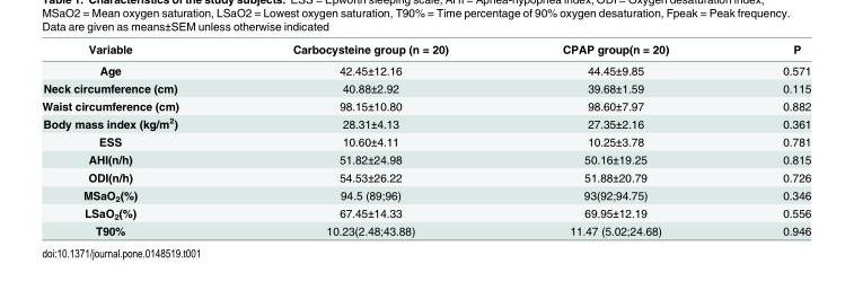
<table><thead><tr><td>Variable</td><td>Carbocysteine group (n = 20)</td><td>CPAP group(n = 20)</td><td>P</td></tr></thead><tbody><tr><td>Age</td><td>42.45±12.16</td><td>44.45±9.85</td><td>0.571</td></tr><tr><td>Neck circumference (cm)</td><td>40.88±2.92</td><td>39.68±1.59</td><td>0.115</td></tr><tr><td>Waist circumference (cm)</td><td>98.15±10.80</td><td>98.60±7.97</td><td>0.882</td></tr><tr><td>Body mass index (kg/m<sup>2</sup>)</td><td>28.31±4.13</td><td>27.35±2.16</td><td>0.361</td></tr><tr><td>ESS</td><td>10.60±4.11</td><td>10.25±3.78</td><td>0.781</td></tr><tr><td>AHI(n/h)</td><td>51.82±24.98</td><td>50.16±19.25</td><td>0.815</td></tr><tr><td>ODI(n/h)</td><td>54.53±26.22</td><td>51.88±20.79</td><td>0.726</td></tr><tr><td>MSaO<sub>2</sub>(%)</td><td>94.5 (89;96)</td><td>93(92;94.75)</td><td>0.346</td></tr><tr><td>LSaO<sub>2</sub>(%)</td><td>67.45±14.33</td><td>69.95±12.19</td><td>0.556</td></tr><tr><td>T90%</td><td>10.23(2.48;43.88)</td><td>11.47 (5.02;24.68)</td><td>0.946</td></tr></tbody></table>